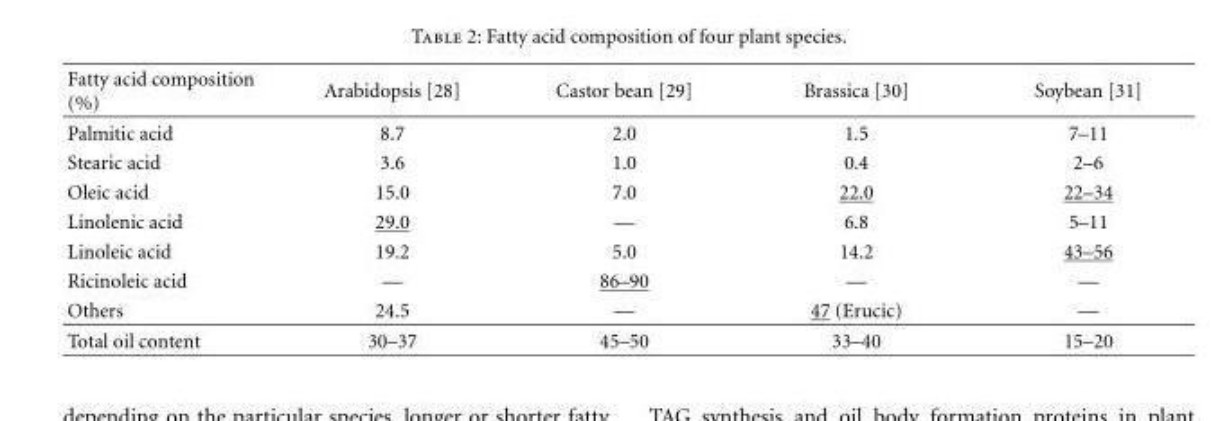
<table><thead><tr><td>Fatty acid composition (%)</td><td>Arabidopsis [28]</td><td>Castor bean [29]</td><td>Brassica [30]</td><td>Soybean [31]</td></tr></thead><tbody><tr><td>Palmitic acid</td><td>8.7</td><td>2.0</td><td>1.5</td><td>7–11</td></tr><tr><td>Stearic acid</td><td>3.6</td><td>1.0</td><td>0.4</td><td>2–6</td></tr><tr><td>Oleic acid</td><td>15.0</td><td>7.0</td><td>22.0</td><td>22–34</td></tr><tr><td>Linolenic acid</td><td>29.0</td><td>—</td><td>6.8</td><td>5–11</td></tr><tr><td>Linoleic acid</td><td>19.2</td><td>5.0</td><td>14.2</td><td>43–56</td></tr><tr><td>Ricinoleic acid</td><td>—</td><td>86–90</td><td>—</td><td>—</td></tr><tr><td>Others</td><td>24.5</td><td>—</td><td>47 (Erucic)</td><td>—</td></tr><tr><td>Total oil content</td><td>30–37</td><td>45–50</td><td>33–40</td><td>15–20</td></tr></tbody></table>